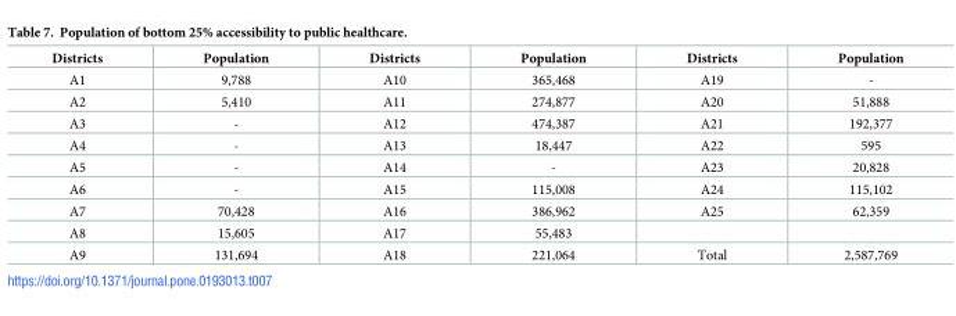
<table><thead><tr><td>Districts</td><td>Population</td><td>Districts</td><td>Population</td><td>Districts</td><td>Population</td></tr></thead><tbody><tr><td>A1</td><td>9,788</td><td>A10</td><td>365,468</td><td>A19</td><td>-</td></tr><tr><td>A2</td><td>5,410</td><td>A11</td><td>274,877</td><td>A20</td><td>51,888</td></tr><tr><td>A3</td><td>-</td><td>A12</td><td>474,387</td><td>A21</td><td>192,377</td></tr><tr><td>A4</td><td>-</td><td>A13</td><td>18,447</td><td>A22</td><td>595</td></tr><tr><td>A5</td><td>-</td><td>A14</td><td>-</td><td>A23</td><td>20,828</td></tr><tr><td>A6</td><td>-</td><td>A15</td><td>115,008</td><td>A24</td><td>115,102</td></tr><tr><td>A7</td><td>70,428</td><td>A16</td><td>386,962</td><td>A25</td><td>62,359</td></tr><tr><td>A8</td><td>15,605</td><td>A17</td><td>55,483</td><td></td><td></td></tr><tr><td>A9</td><td>131,694</td><td>A18</td><td>221,064</td><td>Total</td><td>2,587,769</td></tr></tbody></table>